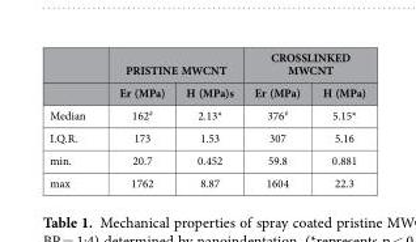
<table><thead><tr><td rowspan="2"></td><td colspan="2">PRISTINE MWCNT</td><td colspan="2">CROSSLINKED MWCNT</td></tr><tr><td>Er (MPa)</td><td>H (MPa)s</td><td>Er (MPa)</td><td>H (MPa)</td></tr></thead><tbody><tr><td>Median</td><td>162<sup>#</sup></td><td>2.13*</td><td>376<sup>#</sup></td><td>5.15*</td></tr><tr><td>I.Q.R.</td><td>173</td><td>1.53</td><td>307</td><td>5.16</td></tr><tr><td>min.</td><td>20.7</td><td>0.452</td><td>59.8</td><td>0.881</td></tr><tr><td>max</td><td>1762</td><td>8.87</td><td>1604</td><td>22.3</td></tr></tbody></table>